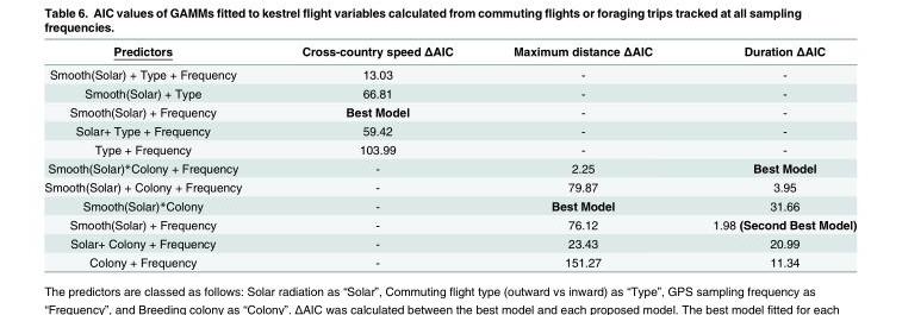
<table><thead><tr><td>Predictors</td><td>Cross-country speed ΔAIC</td><td>Maximum distance ΔAIC</td><td>Duration ΔAIC</td></tr></thead><tbody><tr><td>Smooth(Solar) + Type + Frequency</td><td>13.03</td><td>-</td><td>-</td></tr><tr><td>Smooth(Solar) + Type</td><td>66.81</td><td>-</td><td>-</td></tr><tr><td>Smooth(Solar) + Frequency</td><td>Best Model</td><td>-</td><td>-</td></tr><tr><td>Solar+ Type + Frequency</td><td>59.42</td><td>-</td><td>-</td></tr><tr><td>Type + Frequency</td><td>103.99</td><td>-</td><td>-</td></tr><tr><td>Smooth(Solar)*Colony + Frequency</td><td>-</td><td>2.25</td><td>Best Model</td></tr><tr><td>Smooth(Solar) + Colony + Frequency</td><td>-</td><td>79.87</td><td>3.95</td></tr><tr><td>Smooth(Solar)*Colony</td><td>-</td><td>Best Model</td><td>31.66</td></tr><tr><td>Smooth(Solar) + Frequency</td><td>-</td><td>76.12</td><td>1.98 (Second Best Model)</td></tr><tr><td>Solar+ Colony + Frequency</td><td>-</td><td>23.43</td><td>20.99</td></tr><tr><td>Colony + Frequency</td><td>-</td><td>151.27</td><td>11.34</td></tr></tbody></table>